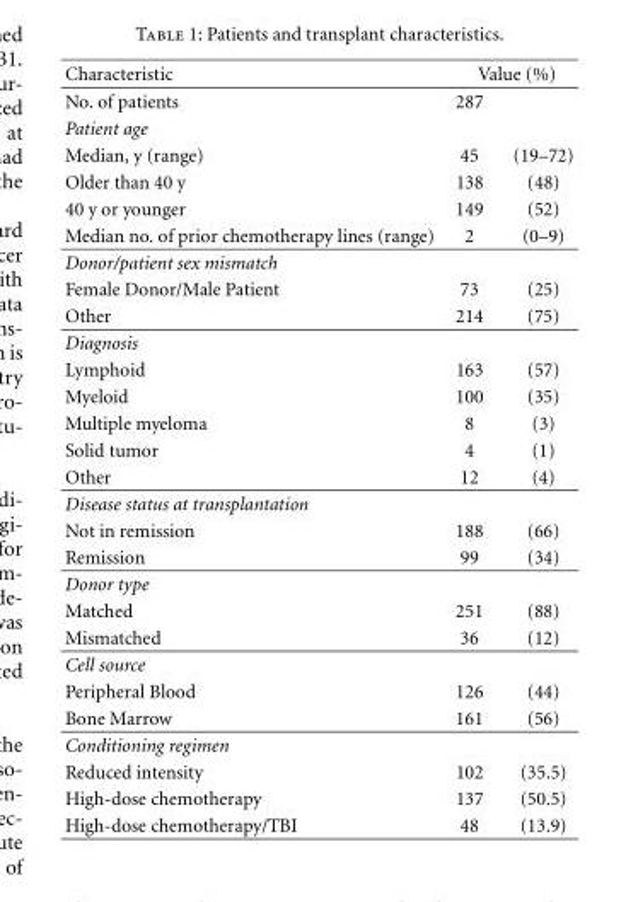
<table><thead><tr><td rowspan="2">Characteristic No. of patients</td><td colspan="2">Value (%)</td></tr><tr><td>287</td><td></td></tr></thead><tbody><tr><td colspan="3">Patient age</td></tr><tr><td>Median, y (range)</td><td>45</td><td>(19–72)</td></tr><tr><td>Older than 40 y</td><td>138</td><td>(48)</td></tr><tr><td>40 y or younger</td><td>149</td><td>(52)</td></tr><tr><td>Median no. of prior chemotherapy lines (range)</td><td>2</td><td>(0–9)</td></tr><tr><td colspan="3">Donor/patient sex mismatch</td></tr><tr><td>Female Donor/Male Patient</td><td>73</td><td>(25)</td></tr><tr><td>Other</td><td>214</td><td>(75)</td></tr><tr><td colspan="3">Diagnosis</td></tr><tr><td>Lymphoid</td><td>163</td><td>(57)</td></tr><tr><td>Myeloid</td><td>100</td><td>(35)</td></tr><tr><td>Multiple myeloma</td><td>8</td><td>(3)</td></tr><tr><td>Solid tumor</td><td>4</td><td>(1)</td></tr><tr><td>Other</td><td>12</td><td>(4)</td></tr><tr><td colspan="3">Disease status at transplantation</td></tr><tr><td>Not in remission</td><td>188</td><td>(66)</td></tr><tr><td>Remission</td><td>99</td><td>(34)</td></tr><tr><td colspan="3">Donor type</td></tr><tr><td>Matched</td><td>251</td><td>(88)</td></tr><tr><td>Mismatched</td><td>36</td><td>(12)</td></tr><tr><td colspan="3">Cell source</td></tr><tr><td>Peripheral Blood</td><td>126</td><td>(44)</td></tr><tr><td>Bone Marrow</td><td>161</td><td>(56)</td></tr><tr><td colspan="3">Conditioning regimen</td></tr><tr><td>Reduced intensity</td><td>102</td><td>(35.5)</td></tr><tr><td>High-dose chemotherapy</td><td>137</td><td>(50.5)</td></tr><tr><td>High-dose chemotherapy/TBI</td><td>48</td><td>(13.9)</td></tr></tbody></table>